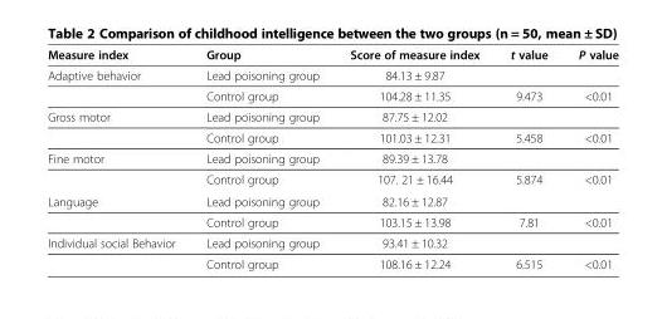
<table><thead><tr><td>Measure index</td><td>Group</td><td>Score of measure index</td><td>t value</td><td>P value</td></tr></thead><tbody><tr><td rowspan="2">Adaptive behavior</td><td>Lead poisoning group</td><td>84.13 ± 9.87</td><td></td><td></td></tr><tr><td>Control group</td><td>104.28 ± 11.35</td><td>9.473</td><td>&lt;0.01</td></tr><tr><td rowspan="2">Gross motor</td><td>Lead poisoning group</td><td>87.75 ± 12.02</td><td></td><td></td></tr><tr><td>Control group</td><td>101.03 ± 12.31</td><td>5.458</td><td>&lt;0.01</td></tr><tr><td rowspan="2">Fine motor</td><td>Lead poisoning group</td><td>89.39 ± 13.78</td><td></td><td></td></tr><tr><td>Control group</td><td>107. 21 ± 16.44</td><td>5.874</td><td>&lt;0.01</td></tr><tr><td rowspan="2">Language</td><td>Lead poisoning group</td><td>82.16 ± 12.87</td><td></td><td></td></tr><tr><td>Control group</td><td>103.15 ± 13.98</td><td>7.81</td><td>&lt;0.01</td></tr><tr><td rowspan="2">Individual social Behavior</td><td>Lead poisoning group</td><td>93.41 ± 10.32</td><td></td><td></td></tr><tr><td>Control group</td><td>108.16 ± 12.24</td><td>6.515</td><td>&lt;0.01</td></tr></tbody></table>